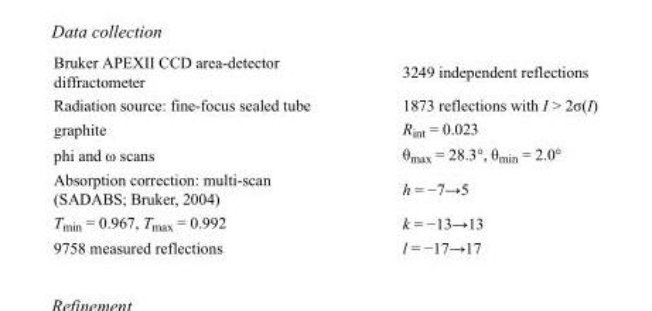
<table><tbody><tr><td>Bruker APEXII CCD area-detector diffractometer</td><td>3249 independent reflections</td></tr><tr><td>Radiation source: fine-focus sealed tube</td><td>1873 reflections with I &gt; 2σ(I)</td></tr><tr><td>graphite</td><td>R<sub>int</sub> = 0.023</td></tr><tr><td>phi and ω scans</td><td>θ<sub>max</sub> = 28.3°, θ<sub>min</sub> = 2.0°</td></tr><tr><td>Absorption correction: multi-scan (SADABS; Bruker, 2004)</td><td>h = −7→5</td></tr><tr><td>T<sub>min</sub> = 0.967, T<sub>max</sub> = 0.992</td><td>k = −13→13</td></tr><tr><td>9758 measured reflections</td><td>l = −17→17</td></tr></tbody></table>